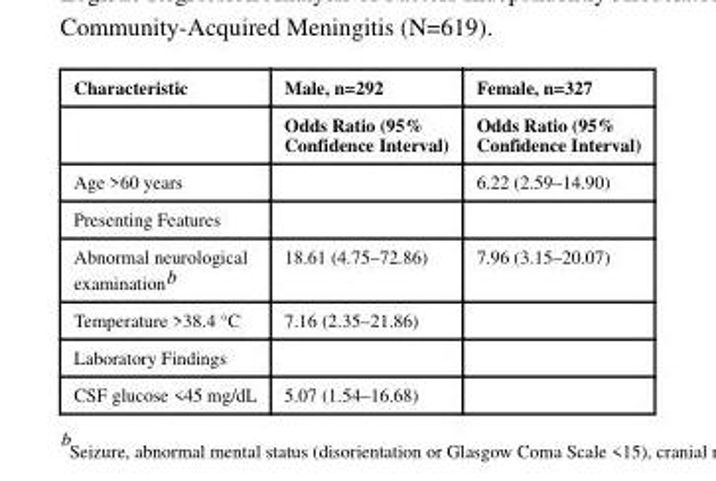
<table><thead><tr><td rowspan="2">Characteristic</td><td rowspan="2">Male, n=292 Odds Ratio (95% Confidence Interval)</td><td rowspan="2">Female, n=327 Odds Ratio (95% Confidence Interval)</td></tr><tr></tr></thead><tbody><tr><td>Age &gt;60 years</td><td></td><td>6.22 (2.59–14.90)</td></tr><tr><td colspan="3">Presenting Features</td></tr><tr><td>Abnormal neurological examination<sup>b</sup></td><td>18.61 (4.75–72.86)</td><td>7.96 (3.15–20.07)</td></tr><tr><td>Temperature &gt;38.4 °C</td><td>7.16 (2.35–21.86)</td><td></td></tr><tr><td colspan="3">Laboratory Findings</td></tr><tr><td>CSF glucose &lt;45 mg/dL</td><td>5.07 (1.54–16.68)</td><td></td></tr></tbody></table>